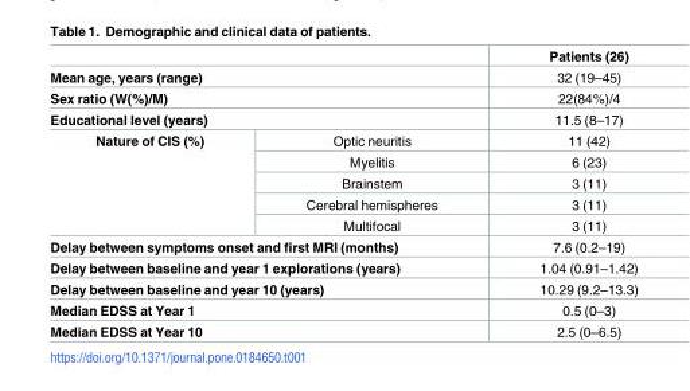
<table><thead><tr><td></td><td></td><td>Patients (26)</td></tr></thead><tbody><tr><td colspan="2">Mean age, years (range)</td><td>32 (19–45)</td></tr><tr><td colspan="2">Sex ratio (W(%)/M)</td><td>22(84%)/4</td></tr><tr><td colspan="2">Educational level (years)</td><td>11.5 (8–17)</td></tr><tr><td rowspan="5">Nature of CIS (%)</td><td>Optic neuritis</td><td>11 (42)</td></tr><tr><td>Myelitis</td><td>6 (23)</td></tr><tr><td>Brainstem</td><td>3 (11)</td></tr><tr><td>Cerebral hemispheres</td><td>3 (11)</td></tr><tr><td>Multifocal</td><td>3 (11)</td></tr><tr><td colspan="2">Delay between symptoms onset and first MRI (months)</td><td>7.6 (0.2–19)</td></tr><tr><td colspan="2">Delay between baseline and year 1 explorations (years)</td><td>1.04 (0.91–1.42)</td></tr><tr><td colspan="2">Delay between baseline and year 10 (years)</td><td>10.29 (9.2–13.3)</td></tr><tr><td colspan="2">Median EDSS at Year 1</td><td>0.5 (0–3)</td></tr><tr><td colspan="2">Median EDSS at Year 10</td><td>2.5 (0–6.5)</td></tr></tbody></table>